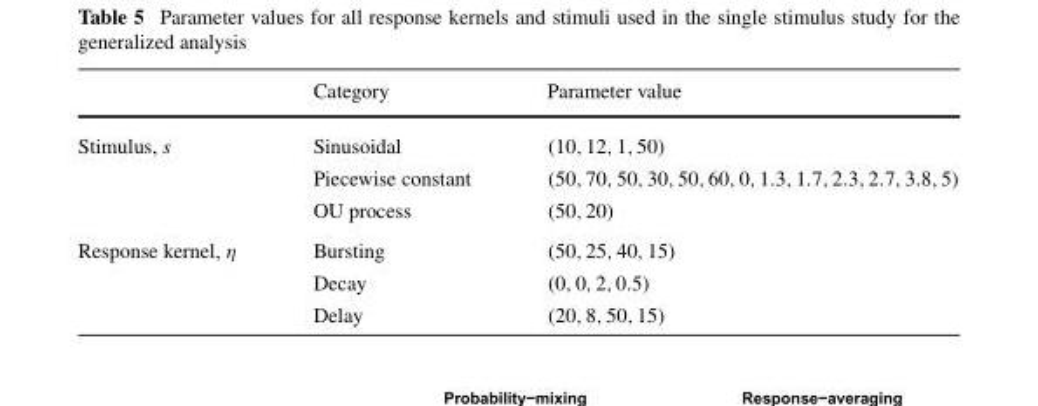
<table><thead><tr><td></td><td>Category</td><td>Parameter value</td></tr></thead><tbody><tr><td rowspan="3">Stimulus, s</td><td>Sinusoidal</td><td>(10,12,1,50)</td></tr><tr><td>Piecewise constant</td><td>(50,70,50,30,50,60,0,1.3,1.7,2.3,2.7,3.8,5)</td></tr><tr><td>OU process</td><td>(50,20)</td></tr><tr><td rowspan="3">Response kernel, η</td><td>Bursting</td><td>(50,25,40,15)</td></tr><tr><td>Decay</td><td>(0,0,2,0.5)</td></tr><tr><td>Delay</td><td>(20,8,50,15)</td></tr></tbody></table>